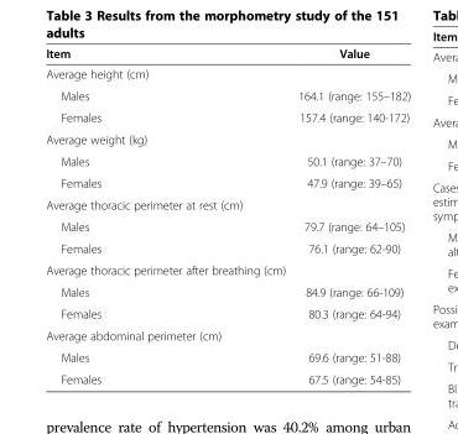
<table><thead><tr><td>Item</td><td>Value</td></tr></thead><tbody><tr><td colspan="2">Average height (cm)</td></tr><tr><td>Males</td><td>164.1 (range: 155–182)</td></tr><tr><td>Females</td><td>157.4 (range: 140-172)</td></tr><tr><td colspan="2">Average weight (kg)</td></tr><tr><td>Males</td><td>50.1 (range: 37–70)</td></tr><tr><td>Females</td><td>47.9 (range: 39–65)</td></tr><tr><td colspan="2">Average thoracic perimeter at rest (cm)</td></tr><tr><td>Males</td><td>79.7 (range: 64–105)</td></tr><tr><td>Females</td><td>76.1 (range: 62-90)</td></tr><tr><td colspan="2">Average thoracic perimeter after breathing (cm)</td></tr><tr><td>Males</td><td>84.9 (range: 66-109)</td></tr><tr><td>Females</td><td>80.3 (range: 64-94)</td></tr><tr><td colspan="2">Average abdominal perimeter (cm)</td></tr><tr><td>Males</td><td>69.6 (range: 51-88)</td></tr><tr><td>Females</td><td>67.5 (range: 54-85)</td></tr></tbody></table>